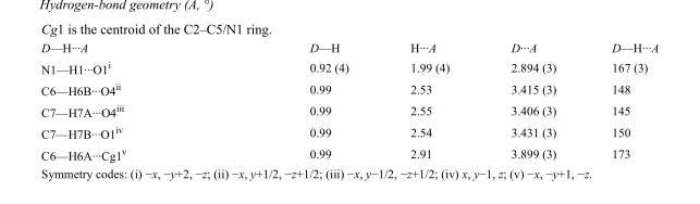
<table><tbody><tr><td>D—H···A</td><td>D—H</td><td>H···A</td><td>D···A</td><td>D—H···A</td></tr><tr><td>N1—H1···O1<sup>i</sup></td><td>0.92 (4)</td><td>1.99 (4)</td><td>2.894 (3)</td><td>167 (3)</td></tr><tr><td>C6—H6B···O4<sup>ii</sup></td><td>0.99</td><td>2.53</td><td>3.415 (3)</td><td>148</td></tr><tr><td>C7—H7A···O4<sup>iii</sup></td><td>0.99</td><td>2.55</td><td>3.406 (3)</td><td>145</td></tr><tr><td>C7—H7B···O1<sup>iv</sup></td><td>0.99</td><td>2.54</td><td>3.431 (3)</td><td>150</td></tr><tr><td>C6—H6A···Cg1<sup>v</sup></td><td>0.99</td><td>2.91</td><td>3.899 (3)</td><td>173</td></tr></tbody></table>